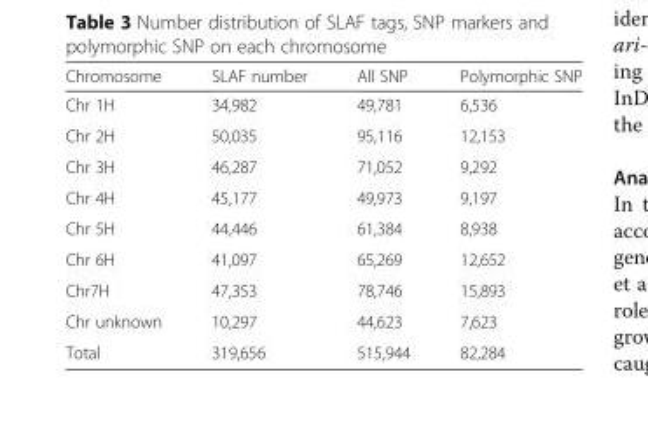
<table><thead><tr><td>Chromosome</td><td>SLAF number</td><td>All SNP</td><td>Polymorphic SNP</td></tr></thead><tbody><tr><td>Chr 1H</td><td>34,982</td><td>49,781</td><td>6,536</td></tr><tr><td>Chr 2H</td><td>50,035</td><td>95,116</td><td>12,153</td></tr><tr><td>Chr 3H</td><td>46,287</td><td>71,052</td><td>9,292</td></tr><tr><td>Chr 4H</td><td>45,177</td><td>49,973</td><td>9,197</td></tr><tr><td>Chr 5H</td><td>44,446</td><td>61,384</td><td>8,938</td></tr><tr><td>Chr 6H</td><td>41,097</td><td>65,269</td><td>12,652</td></tr><tr><td>Chr7H</td><td>47,353</td><td>78,746</td><td>15,893</td></tr><tr><td>Chr unknown</td><td>10,297</td><td>44,623</td><td>7,623</td></tr><tr><td>Total</td><td>319,656</td><td>515,944</td><td>82,284</td></tr></tbody></table>